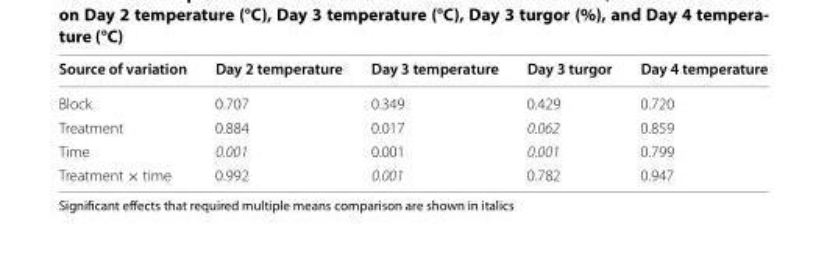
<table><thead><tr><td>Source of variation</td><td>Day 2 temperature</td><td>Day 3 temperature</td><td>Day 3 turgor</td><td>Day 4 temperature</td></tr></thead><tbody><tr><td>Block</td><td>0.707</td><td>0.349</td><td>0.429</td><td>0.720</td></tr><tr><td>Treatment</td><td>0.884</td><td>0.017</td><td>0.062</td><td>0.859</td></tr><tr><td>Time</td><td>0.001</td><td>0.001</td><td>0.001</td><td>0.799</td></tr><tr><td>Treatment × time</td><td>0.992</td><td>0.001</td><td>0.782</td><td>0.947</td></tr></tbody></table>